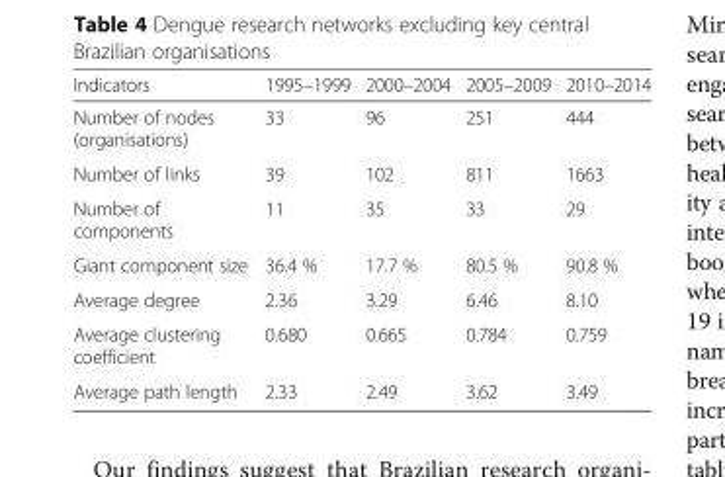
<table><thead><tr><td>Indicators</td><td>1995–1999</td><td>2000–2004</td><td>2005–2009</td><td>2010–2014</td></tr></thead><tbody><tr><td>Number of nodes (organisations)</td><td>33</td><td>96</td><td>251</td><td>444</td></tr><tr><td>Number of links</td><td>39</td><td>102</td><td>811</td><td>1663</td></tr><tr><td>Number of components</td><td>11</td><td>35</td><td>33</td><td>29</td></tr><tr><td>Giant component size</td><td>36.4 %</td><td>17.7 %</td><td>80.5 %</td><td>90.8 %</td></tr><tr><td>Average degree</td><td>2.36</td><td>3.29</td><td>6.46</td><td>8.10</td></tr><tr><td>Average clustering coefficient</td><td>0.680</td><td>0.665</td><td>0.784</td><td>0.759</td></tr><tr><td>Average path length</td><td>2.33</td><td>2.49</td><td>3.62</td><td>3.49</td></tr></tbody></table>